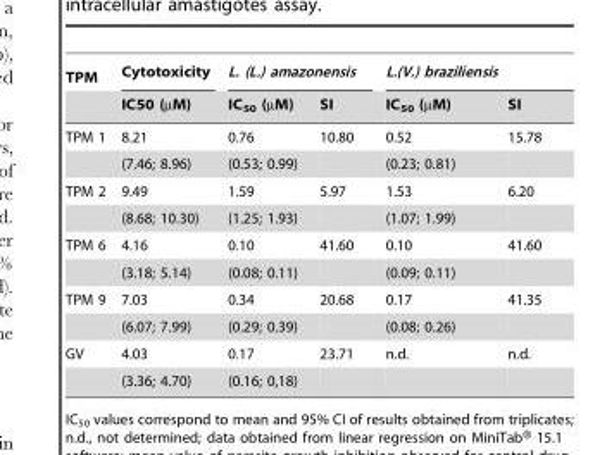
<table><thead><tr><td rowspan="2">TPM</td><td rowspan="2">Cytotoxicity IC50 (µM)</td><td colspan="2">L. (L.) amazonensis</td><td colspan="2">L.(V.) braziliensis</td></tr><tr><td>IC50 (µM)</td><td>SI</td><td>IC50 (µM)</td><td>SI</td></tr></thead><tbody><tr><td rowspan="2">TPM 1</td><td>8.21</td><td>0.76</td><td>10.80</td><td>0.52</td><td>15.78</td></tr><tr><td>(7.46; 8.96)</td><td>(0.53; 0.99)</td><td></td><td>(0.23; 0.81)</td><td></td></tr><tr><td rowspan="2">TPM 2</td><td>9.49</td><td>1.59</td><td>5.97</td><td>1.53</td><td>6.20</td></tr><tr><td>(8.68; 10.30)</td><td>(1.25; 1.93)</td><td></td><td>(1.07; 1.99)</td><td></td></tr><tr><td rowspan="2">TPM 6</td><td>4.16</td><td>0.10</td><td>41.60</td><td>0.10</td><td>41.60</td></tr><tr><td>(3.18; 5.14)</td><td>(0.08; 0.11)</td><td></td><td>(0.09; 0.11)</td><td></td></tr><tr><td rowspan="2">TPM 9</td><td>7.03</td><td>0.34</td><td>20.68</td><td>0.17</td><td>41.35</td></tr><tr><td>(6.07; 7.99)</td><td>(0.29; 0.39)</td><td></td><td>(0.08; 0.26)</td><td></td></tr><tr><td rowspan="2">GV</td><td>4.03</td><td>0.17</td><td>23.71</td><td>n.d.</td><td>n.d.</td></tr><tr><td>(3.36; 4.70)</td><td>(0.16; 0,18)</td><td></td><td></td><td></td></tr></tbody></table>